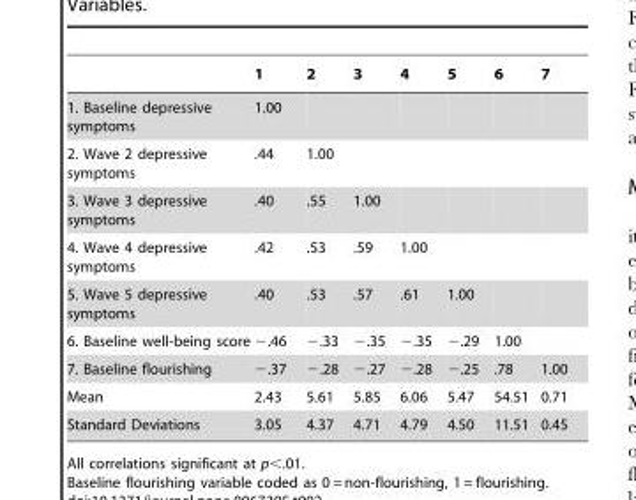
<table><thead><tr><td></td><td>1</td><td>2</td><td>3</td><td>4</td><td>5</td><td>6</td><td>7</td></tr></thead><tbody><tr><td>1. Baseline depressive symptoms</td><td>1.00</td><td></td><td></td><td></td><td></td><td></td><td></td></tr><tr><td>2. Wave 2 depressive symptoms</td><td>.44</td><td>1.00</td><td></td><td></td><td></td><td></td><td></td></tr><tr><td>3. Wave 3 depressive symptoms</td><td>.40</td><td>.55</td><td>1.00</td><td></td><td></td><td></td><td></td></tr><tr><td>4. Wave 4 depressive symptoms</td><td>.42</td><td>.53</td><td>.59</td><td>1.00</td><td></td><td></td><td></td></tr><tr><td>5. Wave 5 depressive symptoms</td><td>.40</td><td>.53</td><td>.57</td><td>.61</td><td>1.00</td><td></td><td></td></tr><tr><td>6. Baseline well-being score</td><td>−.46</td><td>−.33</td><td>−.35</td><td>−.35</td><td>−.29</td><td>1.00</td><td></td></tr><tr><td>7. Baseline flourishing</td><td>−.37</td><td>−.28</td><td>−.27</td><td>−.28</td><td>−.25</td><td>.78</td><td>1.00</td></tr><tr><td>Mean</td><td>2.43</td><td>5.61</td><td>5.85</td><td>6.06</td><td>5.47</td><td>54.51</td><td>0.71</td></tr><tr><td>Standard Deviations</td><td>3.05</td><td>4.37</td><td>4.71</td><td>4.79</td><td>4.50</td><td>11.51</td><td>0.45</td></tr></tbody></table>